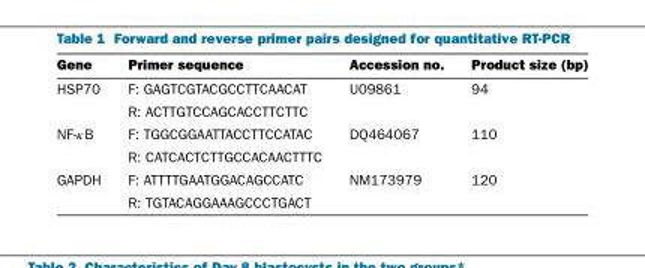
<table><thead><tr><td>Gene</td><td>Primer sequence</td><td>Accession no.</td><td>Product size (bp)</td></tr></thead><tbody><tr><td rowspan="2">HSP70</td><td>F: GAGTCGTACGCCTTCAACAT</td><td>U09861</td><td>94</td></tr><tr><td>R: ACTTGTCCAGCACCTTCTTC</td><td></td><td></td></tr><tr><td rowspan="2">NF-κB</td><td>F: TGGCGGAATTACCTTCCATAC</td><td>DQ464067</td><td>110</td></tr><tr><td>R: CATCACTCTTGCCACAACTTTC</td><td></td><td></td></tr><tr><td rowspan="2">GAPDH</td><td>F: ATTTTGAATGGACAGCCATC</td><td>NM173979</td><td>120</td></tr><tr><td>R: TGTACAGGAAAGCCCTGACT</td><td></td><td></td></tr></tbody></table>